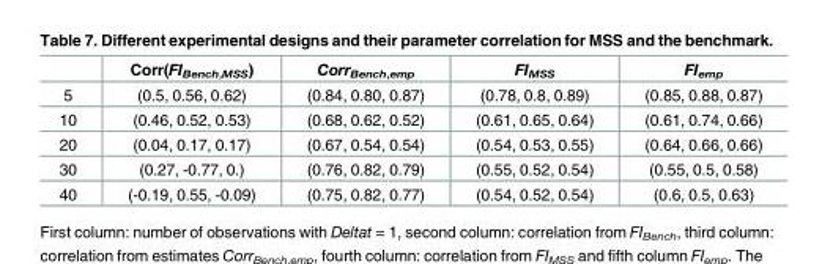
<table><thead><tr><td></td><td>Corr(FI<sub>Bench,MSS</sub>)</td><td>Corr<sub>Bench,emp</sub></td><td>FI<sub>MSS</sub></td><td>FI<sub>emp</sub></td></tr></thead><tbody><tr><td>5</td><td>(0.5, 0.56, 0.62)</td><td>(0.84, 0.80, 0.87)</td><td>(0.78, 0.8, 0.89)</td><td>(0.85, 0.88, 0.87)</td></tr><tr><td>10</td><td>(0.46, 0.52, 0.53)</td><td>(0.68, 0.62, 0.52)</td><td>(0.61, 0.65, 0.64)</td><td>(0.61, 0.74, 0.66)</td></tr><tr><td>20</td><td>(0.04, 0.17, 0.17)</td><td>(0.67, 0.54, 0.54)</td><td>(0.54, 0.53, 0.55)</td><td>(0.64, 0.66, 0.66)</td></tr><tr><td>30</td><td>(0.27, -0.77, 0.)</td><td>(0.76, 0.82, 0.79)</td><td>(0.55, 0.52, 0.54)</td><td>(0.55, 0.5, 0.58)</td></tr><tr><td>40</td><td>(-0.19, 0.55, -0.09)</td><td>(0.75, 0.82, 0.77)</td><td>(0.54, 0.52, 0.54)</td><td>(0.6, 0.5, 0.63)</td></tr></tbody></table>